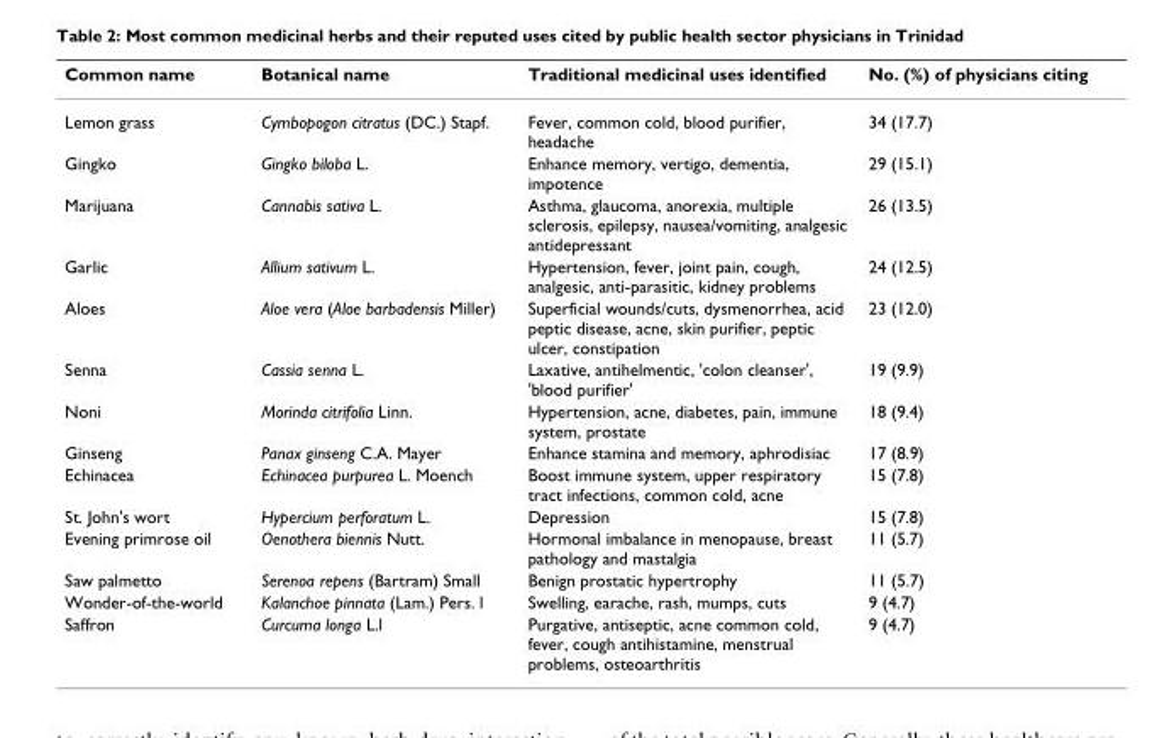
<table><thead><tr><td>Common name</td><td>Botanical name</td><td>Traditional medicinal uses identified</td><td>No. (%) of physicians citing</td></tr></thead><tbody><tr><td>Lemon grass</td><td>Cymbopogon citratus (DC.) Stapf.</td><td>Fever, common cold, blood purifier, headache</td><td>34 (17.7)</td></tr><tr><td>Gingko</td><td>Gingko biloba L.</td><td>Enhance memory, vertigo, dementia, impotence</td><td>29 (15.1)</td></tr><tr><td>Marijuana</td><td>Cannabis sativa L.</td><td>Asthma, glaucoma, anorexia, multiple sclerosis, epilepsy, nausea/vomiting, analgesic antidepressant</td><td>26 (13.5)</td></tr><tr><td>Garlic</td><td>Allium sativum L.</td><td>Hypertension, fever, joint pain, cough, analgesic, anti-parasitic, kidney problems</td><td>24 (12.5)</td></tr><tr><td>Aloes</td><td>Aloe vera (Aloe barbadensis Miller)</td><td>Superficial wounds/cuts, dysmenorrhea, acid peptic disease, acne, skin purifier, peptic ulcer, constipation</td><td>23 (12.0)</td></tr><tr><td>Senna</td><td>Cassia senna L.</td><td>Laxative, antihelmentic, &#x27;colon cleanser&#x27;, &#x27;blood purifier&#x27;</td><td>19 (9.9)</td></tr><tr><td>Noni</td><td>Morinda citrifolia Linn.</td><td>Hypertension, acne, diabetes, pain, immune system, prostate</td><td>18 (9.4)</td></tr><tr><td>Ginseng</td><td>Panax ginseng C.A. Mayer</td><td>Enhance stamina and memory, aphrodisiac</td><td>17 (8.9)</td></tr><tr><td>Echinacea</td><td>Echinacea purpurea L. Moench</td><td>Boost immune system, upper respiratory tract infections, common cold, acne</td><td>15 (7.8)</td></tr><tr><td>St. John&#x27;s wort</td><td>Hypercium perforatum L.</td><td>Depression</td><td>15 (7.8)</td></tr><tr><td>Evening primrose oil</td><td>Oenothera biennis Nutt.</td><td>Hormonal imbalance in menopause, breast pathology and mastalgia</td><td>11 (5.7)</td></tr><tr><td>Saw palmetto</td><td>Serenoa repens (Bartram) Small</td><td>Benign prostatic hypertrophy</td><td>11 (5.7)</td></tr><tr><td>Wonder-of-the-world</td><td>Kalanchoe pinnata (Lam.) Pers. l</td><td>Swelling, earache, rash, mumps, cuts</td><td>9 (4.7)</td></tr><tr><td>Saffron</td><td>Curcuma longa L.l</td><td>Purgative, antiseptic, acne common cold, fever, cough antihistamine, menstrual problems, osteoarthritis</td><td>9 (4.7)</td></tr></tbody></table>